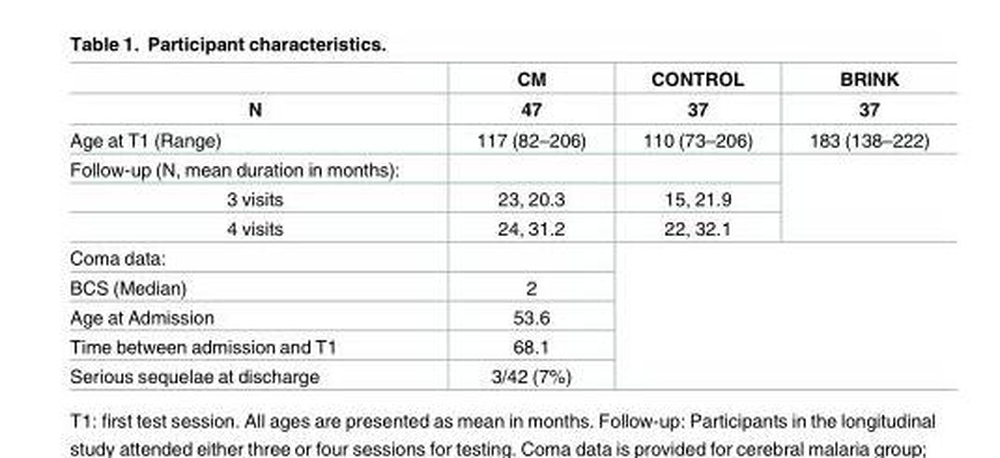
<table><thead><tr><td rowspan="2">N</td><td rowspan="2">CM 47</td><td rowspan="2">CONTROL 37</td><td rowspan="2">BRINK 37</td></tr><tr></tr></thead><tbody><tr><td>Age at T1 (Range)</td><td>117 (82–206)</td><td>110 (73–206)</td><td>183 (138–222)</td></tr><tr><td colspan="3">Follow-up (N, mean duration in months):</td><td rowspan="3"></td></tr><tr><td>3 visits</td><td>23, 20.3</td><td>15, 21.9</td></tr><tr><td>4 visits</td><td>24, 31.2</td><td>22, 32.1</td></tr><tr><td colspan="2">Coma data:</td><td rowspan="5" colspan="2"></td></tr><tr><td>BCS (Median)</td><td>2</td></tr><tr><td>Age at Admission</td><td>53.6</td></tr><tr><td>Time between admission and T1</td><td>68.1</td></tr><tr><td>Serious sequelae at discharge</td><td>3/42 (7%)</td></tr></tbody></table>